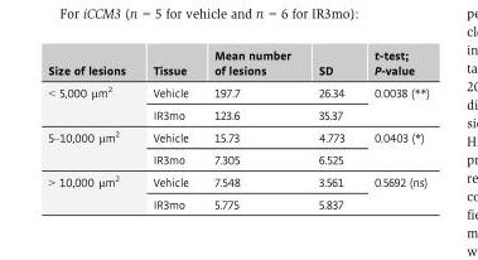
<table><thead><tr><td>Size of lesions</td><td>Tissue</td><td>Mean number of lesions</td><td>SD</td><td>t-test; P-value</td></tr></thead><tbody><tr><td rowspan="2">&lt; 5,000 μm<sup>2</sup></td><td>Vehicle</td><td>197.7</td><td>26.34</td><td rowspan="2">0.0038 (**)</td></tr><tr><td>IR3mo</td><td>123.6</td><td>35.37</td></tr><tr><td rowspan="2">5–10,000 μm<sup>2</sup></td><td>Vehicle</td><td>15.73</td><td>4.773</td><td rowspan="2">0.0403 (*)</td></tr><tr><td>IR3mo</td><td>7.305</td><td>6.525</td></tr><tr><td rowspan="2">&gt; 10,000 μm<sup>2</sup></td><td>Vehicle</td><td>7.548</td><td>3.561</td><td rowspan="2">0.5692 (ns)</td></tr><tr><td>IR3mo</td><td>5.775</td><td>5.837</td></tr></tbody></table>